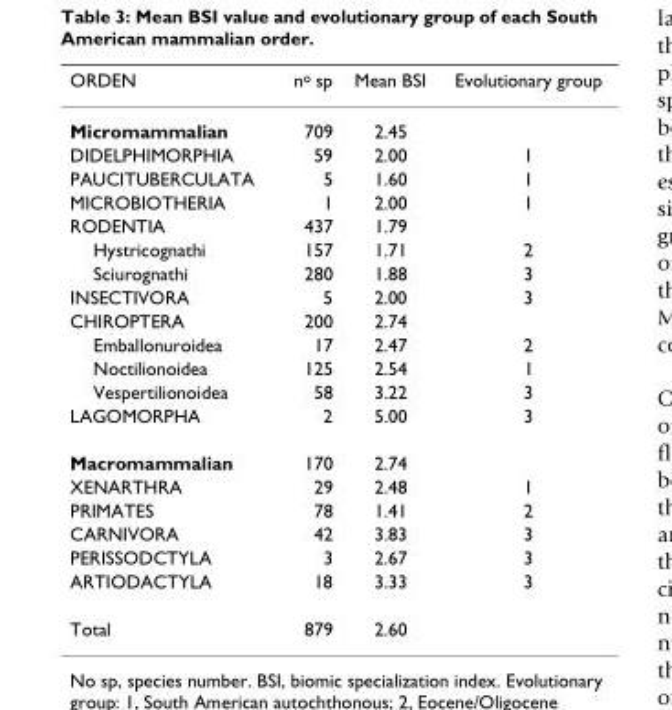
<table><thead><tr><td>ORDEN</td><td>n<sup>o</sup> sp</td><td>Mean BSI</td><td>Evolutionary group</td></tr></thead><tbody><tr><td>Micromammalian</td><td>709</td><td>2.45</td><td></td></tr><tr><td>DIDELPHIMORPHIA</td><td>59</td><td>2.00</td><td>1</td></tr><tr><td>PAUCITUBERCULATA</td><td>5</td><td>1.60</td><td>1</td></tr><tr><td>MICROBIOTHERIA</td><td>1</td><td>2.00</td><td>1</td></tr><tr><td>RODENTIA</td><td>437</td><td>1.79</td><td></td></tr><tr><td>Hystricognathi</td><td>157</td><td>1.71</td><td>2</td></tr><tr><td>Sciurognathi</td><td>280</td><td>1.88</td><td>3</td></tr><tr><td>INSECTIVORA</td><td>5</td><td>2.00</td><td>3</td></tr><tr><td>CHIROPTERA</td><td>200</td><td>2.74</td><td></td></tr><tr><td>Emballonuroidea</td><td>17</td><td>2.47</td><td>2</td></tr><tr><td>Noctilionoidea</td><td>125</td><td>2.54</td><td>1</td></tr><tr><td>Vespertilionoidea</td><td>58</td><td>3.22</td><td>3</td></tr><tr><td>LAGOMORPHA</td><td>2</td><td>5.00</td><td>3</td></tr><tr><td>Macromammalian</td><td>170</td><td>2.74</td><td></td></tr><tr><td>XENARTHRA</td><td>29</td><td>2.48</td><td>1</td></tr><tr><td>PRIMATES</td><td>78</td><td>1.41</td><td>2</td></tr><tr><td>CARNIVORA</td><td>42</td><td>3.83</td><td>3</td></tr><tr><td>PERISSODCTYLA</td><td>3</td><td>2.67</td><td>3</td></tr><tr><td>ARTIODACTYLA</td><td>18</td><td>3.33</td><td>3</td></tr><tr><td>Total</td><td>879</td><td>2.60</td><td></td></tr></tbody></table>